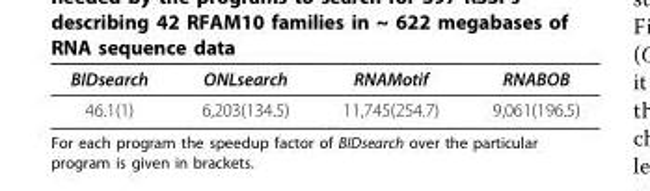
<table><thead><tr><td>BIDsearch</td><td>ONLsearch</td><td>RNAMotif</td><td>RNABOB</td></tr></thead><tbody><tr><td>46.1(1)</td><td>6,203(134.5)</td><td>11,745(254.7)</td><td>9,061(196.5)</td></tr></tbody></table>